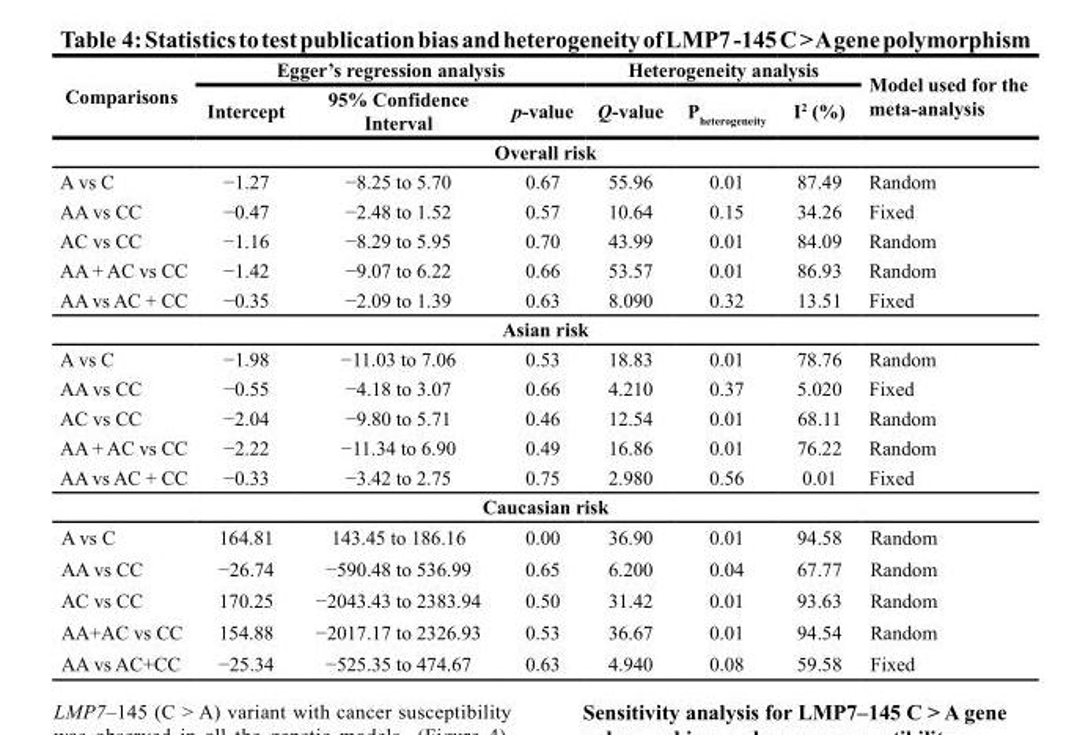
<table><thead><tr><td rowspan="2">Comparisons</td><td colspan="3">Egger’s regression analysis</td><td colspan="3">Heterogeneity analysis</td><td rowspan="2">Model used for the meta-analysis</td></tr><tr><td>Intercept</td><td>95% Confidence Interval</td><td>p-value</td><td>Q-value</td><td>P<sub>heterogeneity</sub></td><td>I<sup>2</sup> (%)</td></tr></thead><tbody><tr><td colspan="8">Overall risk</td></tr><tr><td>A vs C</td><td>−1.27</td><td>−8.25 to 5.70</td><td>0.67</td><td>55.96</td><td>0.01</td><td>87.49</td><td>Random</td></tr><tr><td>AA vs CC</td><td>−0.47</td><td>−2.48 to 1.52</td><td>0.57</td><td>10.64</td><td>0.15</td><td>34.26</td><td>Fixed</td></tr><tr><td>AC vs CC</td><td>−1.16</td><td>−8.29 to 5.95</td><td>0.70</td><td>43.99</td><td>0.01</td><td>84.09</td><td>Random</td></tr><tr><td>AA + AC vs CC</td><td>−1.42</td><td>−9.07 to 6.22</td><td>0.66</td><td>53.57</td><td>0.01</td><td>86.93</td><td>Random</td></tr><tr><td>AA vs AC + CC</td><td>−0.35</td><td>−2.09 to 1.39</td><td>0.63</td><td>8.090</td><td>0.32</td><td>13.51</td><td>Fixed</td></tr><tr><td colspan="8">Asian risk</td></tr><tr><td>A vs C</td><td>−1.98</td><td>−11.03 to 7.06</td><td>0.53</td><td>18.83</td><td>0.01</td><td>78.76</td><td>Random</td></tr><tr><td>AA vs CC</td><td>−0.55</td><td>−4.18 to 3.07</td><td>0.66</td><td>4.210</td><td>0.37</td><td>5.020</td><td>Fixed</td></tr><tr><td>AC vs CC</td><td>−2.04</td><td>−9.80 to 5.71</td><td>0.46</td><td>12.54</td><td>0.01</td><td>68.11</td><td>Random</td></tr><tr><td>AA + AC vs CC</td><td>−2.22</td><td>−11.34 to 6.90</td><td>0.49</td><td>16.86</td><td>0.01</td><td>76.22</td><td>Random</td></tr><tr><td>AA vs AC + CC</td><td>−0.33</td><td>−3.42 to 2.75</td><td>0.75</td><td>2.980</td><td>0.56</td><td>0.01</td><td>Fixed</td></tr><tr><td colspan="8">Caucasian risk</td></tr><tr><td>A vs C</td><td>164.81</td><td>143.45 to 186.16</td><td>0.00</td><td>36.90</td><td>0.01</td><td>94.58</td><td>Random</td></tr><tr><td>AA vs CC</td><td>−26.74</td><td>−590.48 to 536.99</td><td>0.65</td><td>6.200</td><td>0.04</td><td>67.77</td><td>Random</td></tr><tr><td>AC vs CC</td><td>170.25</td><td>−2043.43 to 2383.94</td><td>0.50</td><td>31.42</td><td>0.01</td><td>93.63</td><td>Random</td></tr><tr><td>AA+AC vs CC</td><td>154.88</td><td>−2017.17 to 2326.93</td><td>0.53</td><td>36.67</td><td>0.01</td><td>94.54</td><td>Random</td></tr><tr><td>AA vs AC+CC</td><td>−25.34</td><td>−525.35 to 474.67</td><td>0.63</td><td>4.940</td><td>0.08</td><td>59.58</td><td>Fixed</td></tr></tbody></table>